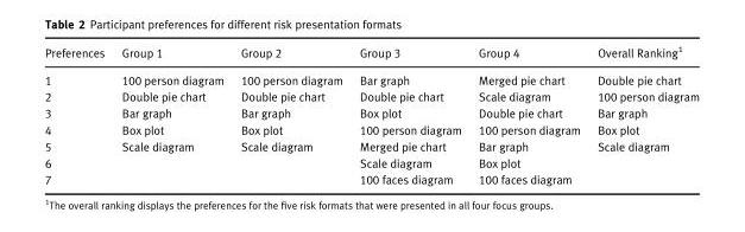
<table><thead><tr><td>Preferences</td><td>Group 1</td><td>Group 2</td><td>Group 3</td><td>Group 4</td><td>Overall Ranking1</td></tr></thead><tbody><tr><td>1</td><td>100 person diagram</td><td>100 person diagram</td><td>Bar graph</td><td>Merged pie chart</td><td>Double pie chart</td></tr><tr><td>2</td><td>Double pie chart</td><td>Double pie chart</td><td>Double pie chart</td><td>Scale diagram</td><td>100 person diagram</td></tr><tr><td>3</td><td>Bar graph</td><td>Bar graph</td><td>Box plot</td><td>Double pie chart</td><td>Bar graph</td></tr><tr><td>4</td><td>Box plot</td><td>Box plot</td><td>100 person diagram</td><td>100 person diagram</td><td>Box plot</td></tr><tr><td>5</td><td>Scale diagram</td><td>Scale diagram</td><td>Merged pie chart</td><td>Bar graph</td><td>Scale diagram</td></tr><tr><td>6</td><td></td><td></td><td>Scale diagram</td><td>Box plot</td><td></td></tr><tr><td>7</td><td></td><td></td><td>100 faces diagram</td><td>100 faces diagram</td><td></td></tr></tbody></table>